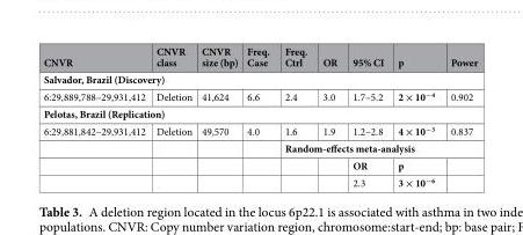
<table><thead><tr><td>CNVR</td><td>CNVR class</td><td>CNVR size (bp)</td><td>Freq. Case</td><td>Freq. Ctrl</td><td>OR</td><td>95% CI</td><td>p</td><td>Power</td></tr></thead><tbody><tr><td colspan="9">Salvador, Brazil (Discovery)</td></tr><tr><td>6:29,889,788–29,931,412</td><td>Deletion</td><td>41,624</td><td>6.6</td><td>2.4</td><td>3.0</td><td>1.7–5.2</td><td>2 × 10<sup>−4</sup></td><td>0.902</td></tr><tr><td colspan="9">Pelotas, Brazil (Replication)</td></tr><tr><td rowspan="4">6:29,881,842–29,931,412</td><td>Deletion</td><td>49,570</td><td>4.0</td><td>1.6</td><td>1.9</td><td>1.2–2.8</td><td>4 × 10<sup>−3</sup></td><td>0.837</td></tr><tr><td></td><td></td><td></td><td colspan="5">Random-effects meta-analysis</td></tr><tr><td></td><td></td><td></td><td></td><td></td><td>OR</td><td>p</td><td></td></tr><tr><td></td><td></td><td></td><td></td><td></td><td>2.3</td><td>3 × 10<sup>−6</sup></td><td></td></tr></tbody></table>